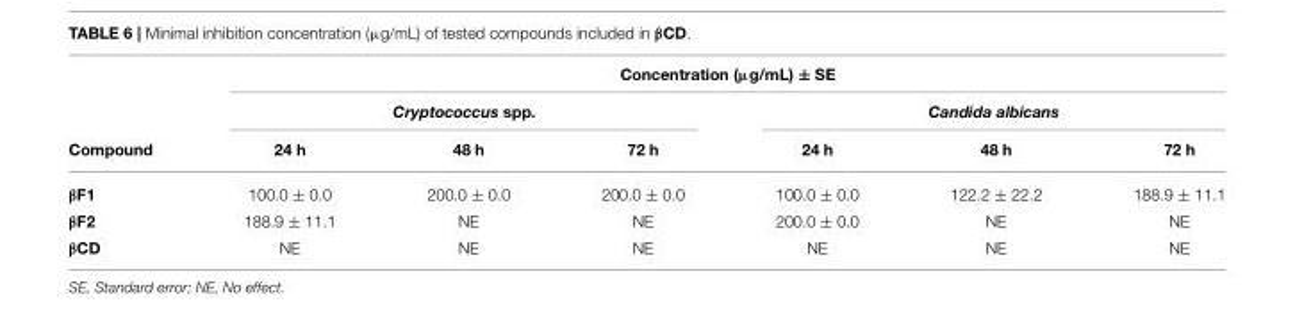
<table><thead><tr><td rowspan="3">Compound</td><td colspan="6">Concentration (µg/mL) ± SE</td></tr><tr><td colspan="3">Cryptococcus spp.</td><td colspan="3">Candida albicans</td></tr><tr><td>24 h</td><td>48 h</td><td>72 h</td><td>24 h</td><td>48 h</td><td>72 h</td></tr></thead><tbody><tr><td>βF1</td><td>100.0 ± 0.0</td><td>200.0 ± 0.0</td><td>200.0 ± 0.0</td><td>100.0 ± 0.0</td><td>122.2 ± 22.2</td><td>188.9 ± 11.1</td></tr><tr><td>βF2</td><td>188.9 ± 11.1</td><td>NE</td><td>NE</td><td>200.0 ± 0.0</td><td>NE</td><td>NE</td></tr><tr><td>βCD</td><td>NE</td><td>NE</td><td>NE</td><td>NE</td><td>NE</td><td>NE</td></tr></tbody></table>